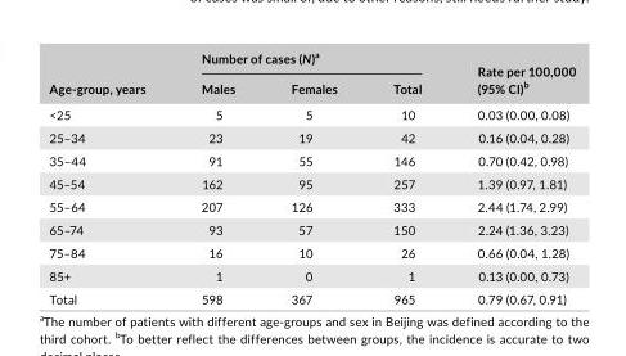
<table><thead><tr><td rowspan="2">Age‐group, years</td><td colspan="3">Number of cases (N)<sup>a</sup></td><td rowspan="2">Rate per 100,000 (95% CI)<sup>b</sup></td></tr><tr><td>Males</td><td>Females</td><td>Total</td></tr></thead><tbody><tr><td>&lt;25</td><td>5</td><td>5</td><td>10</td><td>0.03 (0.00, 0.08)</td></tr><tr><td>25–34</td><td>23</td><td>19</td><td>42</td><td>0.16 (0.04, 0.28)</td></tr><tr><td>35–44</td><td>91</td><td>55</td><td>146</td><td>0.70 (0.42, 0.98)</td></tr><tr><td>45–54</td><td>162</td><td>95</td><td>257</td><td>1.39 (0.97, 1.81)</td></tr><tr><td>55–64</td><td>207</td><td>126</td><td>333</td><td>2.44 (1.74, 2.99)</td></tr><tr><td>65–74</td><td>93</td><td>57</td><td>150</td><td>2.24 (1.36, 3.23)</td></tr><tr><td>75–84</td><td>16</td><td>10</td><td>26</td><td>0.66 (0.04, 1.28)</td></tr><tr><td>85+</td><td>1</td><td>0</td><td>1</td><td>0.13 (0.00, 0.73)</td></tr><tr><td>Total</td><td>598</td><td>367</td><td>965</td><td>0.79 (0.67, 0.91)</td></tr></tbody></table>